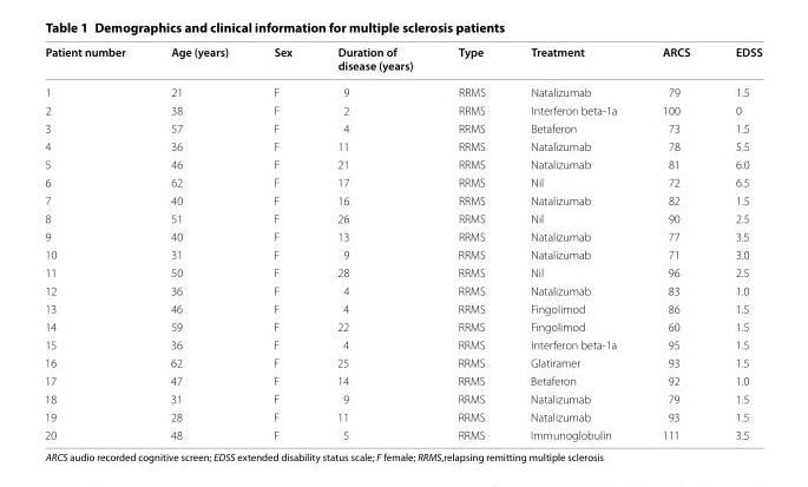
<table><thead><tr><td>Patient number</td><td>Age (years)</td><td>Sex</td><td>Duration of disease (years)</td><td>Type</td><td>Treatment</td><td>ARCS</td><td>EDSS</td></tr></thead><tbody><tr><td>1</td><td>21</td><td>F</td><td>9</td><td>RRMS</td><td>Natalizumab</td><td>79</td><td>1.5</td></tr><tr><td>2</td><td>38</td><td>F</td><td>2</td><td>RRMS</td><td>Interferon beta‑1a</td><td>100</td><td>0</td></tr><tr><td>3</td><td>57</td><td>F</td><td>4</td><td>RRMS</td><td>Betaferon</td><td>73</td><td>1.5</td></tr><tr><td>4</td><td>36</td><td>F</td><td>11</td><td>RRMS</td><td>Natalizumab</td><td>78</td><td>5.5</td></tr><tr><td>5</td><td>46</td><td>F</td><td>21</td><td>RRMS</td><td>Natalizumab</td><td>81</td><td>6.0</td></tr><tr><td>6</td><td>62</td><td>F</td><td>17</td><td>RRMS</td><td>Nil</td><td>72</td><td>6.5</td></tr><tr><td>7</td><td>40</td><td>F</td><td>16</td><td>RRMS</td><td>Natalizumab</td><td>82</td><td>1.5</td></tr><tr><td>8</td><td>51</td><td>F</td><td>26</td><td>RRMS</td><td>Nil</td><td>90</td><td>2.5</td></tr><tr><td>9</td><td>40</td><td>F</td><td>13</td><td>RRMS</td><td>Natalizumab</td><td>77</td><td>3.5</td></tr><tr><td>10</td><td>31</td><td>F</td><td>9</td><td>RRMS</td><td>Natalizumab</td><td>71</td><td>3.0</td></tr><tr><td>11</td><td>50</td><td>F</td><td>28</td><td>RRMS</td><td>Nil</td><td>96</td><td>2.5</td></tr><tr><td>12</td><td>36</td><td>F</td><td>4</td><td>RRMS</td><td>Natalizumab</td><td>83</td><td>1.0</td></tr><tr><td>13</td><td>46</td><td>F</td><td>4</td><td>RRMS</td><td>Fingolimod</td><td>86</td><td>1.5</td></tr><tr><td>14</td><td>59</td><td>F</td><td>22</td><td>RRMS</td><td>Fingolimod</td><td>60</td><td>1.5</td></tr><tr><td>15</td><td>36</td><td>F</td><td>4</td><td>RRMS</td><td>Interferon beta‑1a</td><td>95</td><td>1.5</td></tr><tr><td>16</td><td>62</td><td>F</td><td>25</td><td>RRMS</td><td>Glatiramer</td><td>93</td><td>1.5</td></tr><tr><td>17</td><td>47</td><td>F</td><td>14</td><td>RRMS</td><td>Betaferon</td><td>92</td><td>1.0</td></tr><tr><td>18</td><td>31</td><td>F</td><td>9</td><td>RRMS</td><td>Natalizumab</td><td>79</td><td>1.5</td></tr><tr><td>19</td><td>28</td><td>F</td><td>11</td><td>RRMS</td><td>Natalizumab</td><td>93</td><td>1.5</td></tr><tr><td>20</td><td>48</td><td>F</td><td>5</td><td>RRMS</td><td>Immunoglobulin</td><td>111</td><td>3.5</td></tr></tbody></table>